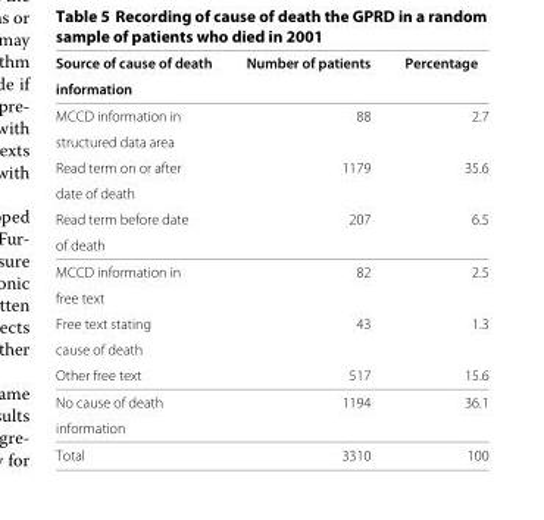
<table><thead><tr><td rowspan="2">Source of cause of death information</td><td rowspan="2">Number of patients</td><td rowspan="2">Percentage</td></tr><tr></tr></thead><tbody><tr><td>MCCD information in</td><td>88</td><td>2.7</td></tr><tr><td colspan="3">structured data area</td></tr><tr><td>Read term on or after</td><td>1179</td><td>35.6</td></tr><tr><td colspan="3">date of death</td></tr><tr><td>Read term before date</td><td>207</td><td>6.5</td></tr><tr><td colspan="3">of death</td></tr><tr><td>MCCD information in</td><td>82</td><td>2.5</td></tr><tr><td colspan="3">free text</td></tr><tr><td>Free text stating</td><td>43</td><td>1.3</td></tr><tr><td colspan="3">cause of death</td></tr><tr><td>Other free text</td><td>517</td><td>15.6</td></tr><tr><td>No cause of death</td><td>1194</td><td>36.1</td></tr><tr><td colspan="3">information</td></tr><tr><td>Total</td><td>3310</td><td>100</td></tr></tbody></table>